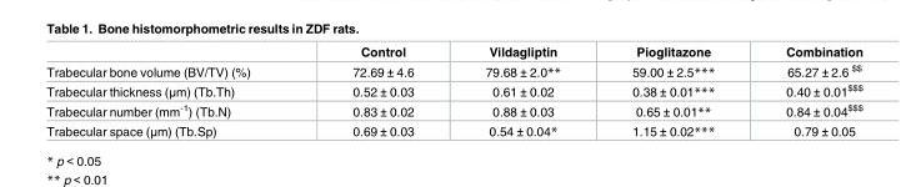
<table><thead><tr><td></td><td>Control</td><td>Vildagliptin</td><td>Pioglitazone</td><td>Combination</td></tr></thead><tbody><tr><td>Trabecular bone volume (BV/TV) (%)</td><td>72.69 ± 4.6</td><td>79.68 ± 2.0**</td><td>59.00 ± 2.5***</td><td>65.27 ± 2.6 <sup>$$</sup></td></tr><tr><td>Trabecular thickness (μm) (Tb.Th)</td><td>0.52 ± 0.03</td><td>0.61 ± 0.02</td><td>0.38 ± 0.01***</td><td>0.40 ± 0.01<sup>$$$</sup></td></tr><tr><td>Trabecular number (mm<sup>-1</sup>) (Tb.N)</td><td>0.83 ± 0.02</td><td>0.88 ± 0.03</td><td>0.65 ± 0.01**</td><td>0.84 ± 0.04<sup>$$$</sup></td></tr><tr><td>Trabecular space (μm) (Tb.Sp)</td><td>0.69 ± 0.03</td><td>0.54 ± 0.04*</td><td>1.15 ± 0.02***</td><td>0.79 ± 0.05</td></tr></tbody></table>